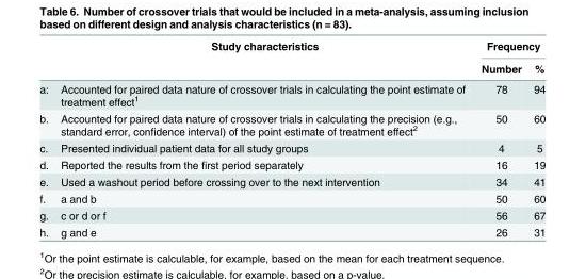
<table><thead><tr><td rowspan="2"></td><td rowspan="2">Study characteristics</td><td colspan="2">Frequency</td></tr><tr><td>Number</td><td>%</td></tr></thead><tbody><tr><td>a:</td><td>Accounted for paired data nature of crossover trials in calculating the point estimate of treatment effect<sup>1</sup></td><td>78</td><td>94</td></tr><tr><td>b.</td><td>Accounted for paired data nature of crossover trials in calculating the precision (e.g., standard error, confidence interval) of the point estimate of treatment effect<sup>2</sup></td><td>50</td><td>60</td></tr><tr><td>c.</td><td>Presented individual patient data for all study groups</td><td>4</td><td>5</td></tr><tr><td>d.</td><td>Reported the results from the first period separately</td><td>16</td><td>19</td></tr><tr><td>e.</td><td>Used a washout period before crossing over to the next intervention</td><td>34</td><td>41</td></tr><tr><td>f.</td><td>a and b</td><td>50</td><td>60</td></tr><tr><td>g.</td><td>c or d or f</td><td>56</td><td>67</td></tr><tr><td>h.</td><td>g and e</td><td>26</td><td>31</td></tr></tbody></table>